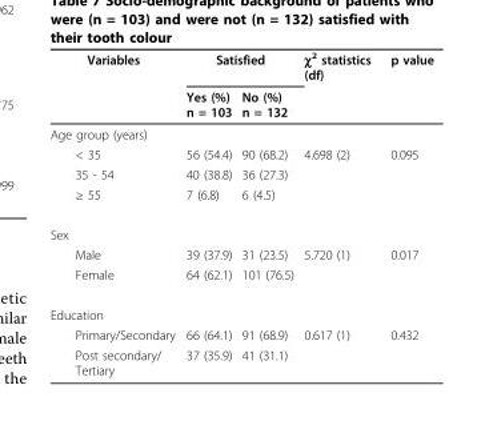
<table><thead><tr><td rowspan="2">Variables</td><td colspan="2">Satisfied</td><td rowspan="2">χ<sup>2</sup> statistics (df)</td><td rowspan="2">p value</td></tr><tr><td>Yes (%) n = 103</td><td>No (%) n = 132</td></tr></thead><tbody><tr><td colspan="5">Age group (years)</td></tr><tr><td>&lt; 35</td><td>56 (54.4)</td><td>90 (68.2)</td><td>4.698 (2)</td><td>0.095</td></tr><tr><td>35 - 54</td><td>40 (38.8)</td><td>36 (27.3)</td><td></td><td></td></tr><tr><td>≥ 55</td><td>7 (6.8)</td><td>6 (4.5)</td><td></td><td></td></tr><tr><td colspan="5">Sex</td></tr><tr><td>Male</td><td>39 (37.9)</td><td>31 (23.5)</td><td>5.720 (1)</td><td>0.017</td></tr><tr><td>Female</td><td>64 (62.1)</td><td>101 (76.5)</td><td></td><td></td></tr><tr><td colspan="5">Education</td></tr><tr><td>Primary/Secondary</td><td>66 (64.1)</td><td>91 (68.9)</td><td>0.617 (1)</td><td>0.432</td></tr><tr><td>Post secondary/ Tertiary</td><td>37 (35.9)</td><td>41 (31.1)</td><td></td><td></td></tr></tbody></table>